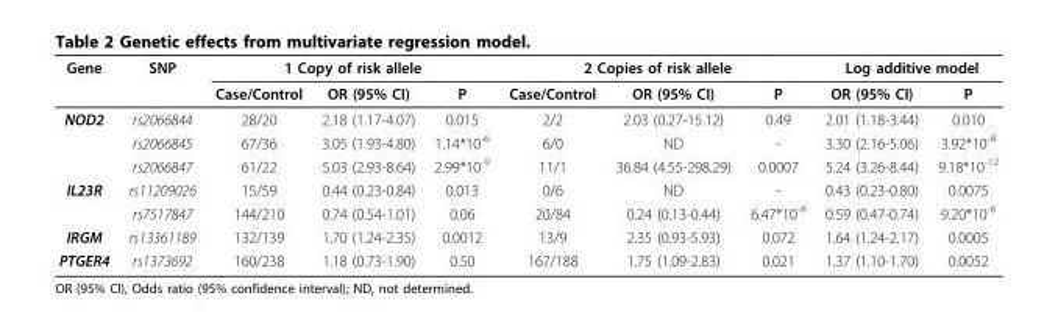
<table><thead><tr><td rowspan="2">Gene</td><td rowspan="2">SNP</td><td colspan="3">1 Copy of risk allele</td><td colspan="3">2 Copies of risk allele</td><td colspan="2">Log additive model</td></tr><tr><td>Case/Control</td><td>OR (95% CI)</td><td>P</td><td>Case/Control</td><td>OR (95% CI)</td><td>P</td><td>OR (95% CI)</td><td>P</td></tr></thead><tbody><tr><td rowspan="3">NOD2</td><td>rs2066844</td><td>28/20</td><td>2.18 (1.17-4.07)</td><td>0.015</td><td>2/2</td><td>2.03 (0.27-15.12)</td><td>0.49</td><td>2.01 (1.18-3.44)</td><td>0.010</td></tr><tr><td>rs2066845</td><td>67/36</td><td>3.05 (1.93-4.80)</td><td>1.14*10<sup>-6</sup></td><td>6/0</td><td>ND</td><td>-</td><td>3.30 (2.16-5.06)</td><td>3.92*10<sup>-8</sup></td></tr><tr><td>rs2066847</td><td>61/22</td><td>5.03 (2.93-8.64)</td><td>2.99*10<sup>-9</sup></td><td>11/1</td><td>36.84 (4.55-298.29)</td><td>0.0007</td><td>5.24 (3.26-8.44)</td><td>9.18*10<sup>-12</sup></td></tr><tr><td rowspan="2">IL23R</td><td>rs11209026</td><td>15/59</td><td>0.44 (0.23-0.84)</td><td>0.013</td><td>0/6</td><td>ND</td><td>-</td><td>0.43 (0.23-0.80)</td><td>0.0075</td></tr><tr><td>rs7517847</td><td>144/210</td><td>0.74 (0.54-1.01)</td><td>0.06</td><td>20/84</td><td>0.24 (0.13-0.44)</td><td>6.47*10<sup>-8</sup></td><td>0.59 (0.47-0.74)</td><td>9.20*10<sup>-6</sup></td></tr><tr><td>IRGM</td><td>rs13361189</td><td>132/139</td><td>1.70 (1.24-2.35)</td><td>0.0012</td><td>13/9</td><td>2.35 (0.93-5.93)</td><td>0.072</td><td>1.64 (1.24-2.17)</td><td>0.0005</td></tr><tr><td>PTGER4</td><td>rs1373692</td><td>160/238</td><td>1.18 (0.73-1.90)</td><td>0.50</td><td>167/188</td><td>1.75 (1.09-2.83)</td><td>0.021</td><td>1.37 (1.10-1.70)</td><td>0.0052</td></tr></tbody></table>